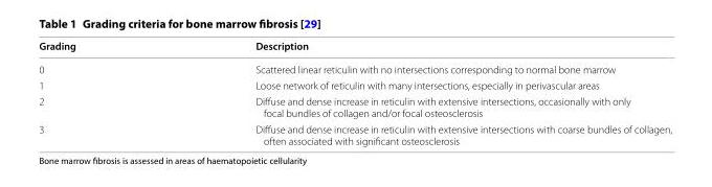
<table><thead><tr><td>Grading</td><td>Description</td></tr></thead><tbody><tr><td>0</td><td>Scattered linear reticulin with no intersections corresponding to normal bone marrow</td></tr><tr><td>1</td><td>Loose network of reticulin with many intersections, especially in perivascular areas</td></tr><tr><td>2</td><td>Diffuse and dense increase in reticulin with extensive intersections, occasionally with only focal bundles of collagen and/or focal osteosclerosis</td></tr><tr><td>3</td><td>Diffuse and dense increase in reticulin with extensive intersections with coarse bundles of collagen, often associated with significant osteosclerosis</td></tr></tbody></table>